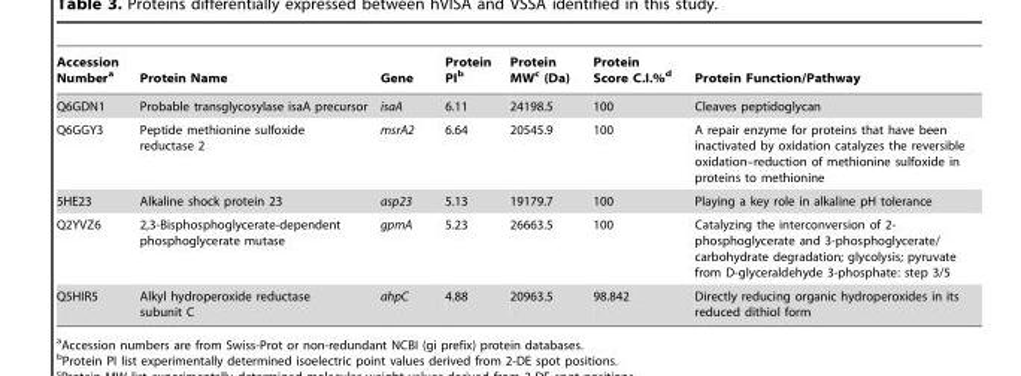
<table><thead><tr><td>Accession Number<sup>a</sup></td><td>Protein Name</td><td>Gene</td><td>Protein PI<sup>b</sup></td><td>Protein MW<sup>c</sup> (Da)</td><td>Protein Score C.I.%<sup>d</sup></td><td>Protein Function/Pathway</td></tr></thead><tbody><tr><td>Q6GDN1</td><td>Probable transglycosylase isaA precursor</td><td>isaA</td><td>6.11</td><td>24198.5</td><td>100</td><td>Cleaves peptidoglycan</td></tr><tr><td>Q6GGY3</td><td>Peptide methionine sulfoxide reductase 2</td><td>msrA2</td><td>6.64</td><td>20545.9</td><td>100</td><td>A repair enzyme for proteins that have been inactivated by oxidation catalyzes the reversible oxidation–reduction of methionine sulfoxide in proteins to methionine</td></tr><tr><td>5HE23</td><td>Alkaline shock protein 23</td><td>asp23</td><td>5.13</td><td>19179.7</td><td>100</td><td>Playing a key role in alkaline pH tolerance</td></tr><tr><td>Q2YVZ6</td><td>2,3-Bisphosphoglycerate-dependent phosphoglycerate mutase</td><td>gpmA</td><td>5.23</td><td>26663.5</td><td>100</td><td>Catalyzing the interconversion of 2- phosphoglycerate and 3-phosphoglycerate/ carbohydrate degradation; glycolysis; pyruvate from D-glyceraldehyde 3-phosphate: step 3/5</td></tr><tr><td>Q5HIR5</td><td>Alkyl hydroperoxide reductase subunit C</td><td>ahpC</td><td>4.88</td><td>20963.5</td><td>98.842</td><td>Directly reducing organic hydroperoxides in its reduced dithiol form</td></tr></tbody></table>